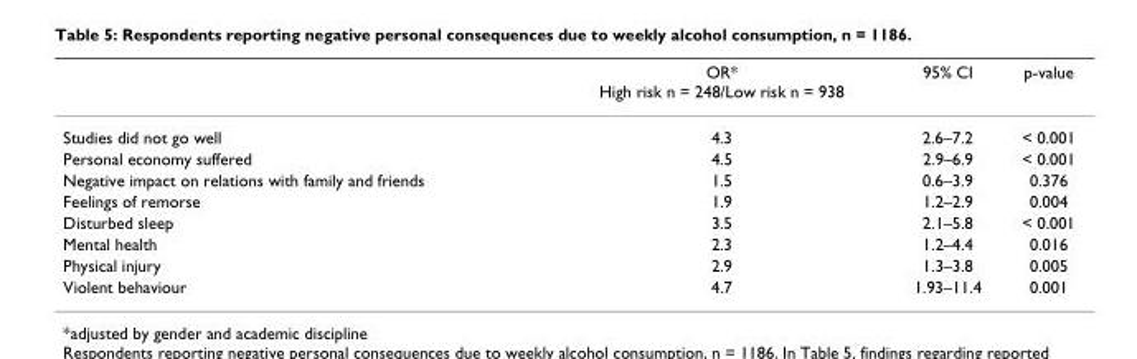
<table><thead><tr><td></td><td>OR* High risk n = 248/Low risk n = 938</td><td>95% CI</td><td>p-value</td></tr></thead><tbody><tr><td>Studies did not go well</td><td>4.3</td><td>2.6–7.2</td><td>&lt; 0.001</td></tr><tr><td>Personal economy suffered</td><td>4.5</td><td>2.9–6.9</td><td>&lt; 0.001</td></tr><tr><td>Negative impact on relations with family and friends</td><td>1.5</td><td>0.6–3.9</td><td>0.376</td></tr><tr><td>Feelings of remorse</td><td>1.9</td><td>1.2–2.9</td><td>0.004</td></tr><tr><td>Disturbed sleep</td><td>3.5</td><td>2.1–5.8</td><td>&lt; 0.001</td></tr><tr><td>Mental health</td><td>2.3</td><td>1.2–4.4</td><td>0.016</td></tr><tr><td>Physical injury</td><td>2.9</td><td>1.3–3.8</td><td>0.005</td></tr><tr><td>Violent behaviour</td><td>4.7</td><td>1.93–11.4</td><td>0.001</td></tr></tbody></table>